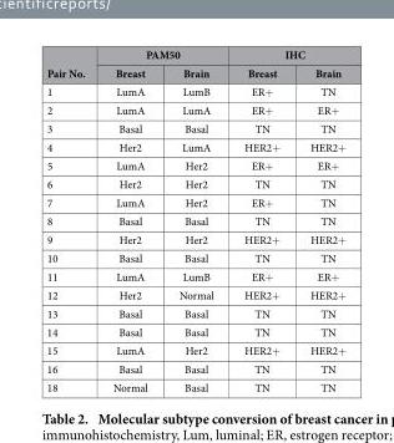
<table><thead><tr><td rowspan="2">Pair No.</td><td colspan="2">PAM50</td><td colspan="2">IHC</td></tr><tr><td>Breast</td><td>Brain</td><td>Breast</td><td>Brain</td></tr></thead><tbody><tr><td>1</td><td>LumA</td><td>LumB</td><td>ER+</td><td>TN</td></tr><tr><td>2</td><td>LumA</td><td>LumA</td><td>ER+</td><td>ER+</td></tr><tr><td>3</td><td>Basal</td><td>Basal</td><td>TN</td><td>TN</td></tr><tr><td>4</td><td>Her2</td><td>LumA</td><td>HER2+</td><td>HER2+</td></tr><tr><td>5</td><td>LumA</td><td>Her2</td><td>ER+</td><td>ER+</td></tr><tr><td>6</td><td>Her2</td><td>Her2</td><td>TN</td><td>TN</td></tr><tr><td>7</td><td>LumA</td><td>Her2</td><td>ER+</td><td>TN</td></tr><tr><td>8</td><td>Basal</td><td>Basal</td><td>TN</td><td>TN</td></tr><tr><td>9</td><td>Her2</td><td>Her2</td><td>HER2+</td><td>HER2+</td></tr><tr><td>10</td><td>Basal</td><td>Basal</td><td>TN</td><td>TN</td></tr><tr><td>11</td><td>LumA</td><td>LumB</td><td>ER+</td><td>ER+</td></tr><tr><td>12</td><td>Her2</td><td>Normal</td><td>HER2+</td><td>HER2+</td></tr><tr><td>13</td><td>Basal</td><td>Basal</td><td>TN</td><td>TN</td></tr><tr><td>14</td><td>Basal</td><td>Basal</td><td>TN</td><td>TN</td></tr><tr><td>15</td><td>LumA</td><td>Her2</td><td>HER2+</td><td>HER2+</td></tr><tr><td>16</td><td>Basal</td><td>Basal</td><td>TN</td><td>TN</td></tr><tr><td>18</td><td>Normal</td><td>Basal</td><td>TN</td><td>TN</td></tr></tbody></table>